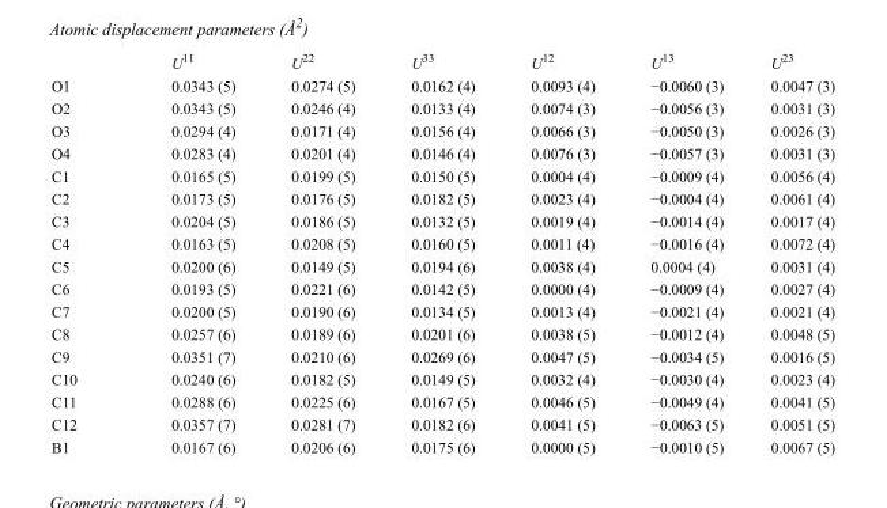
<table><thead><tr><td></td><td>U<sup>11</sup></td><td>U<sup>22</sup></td><td>U<sup>33</sup></td><td>U<sup>12</sup></td><td>U<sup>13</sup></td><td>U<sup>23</sup></td></tr></thead><tbody><tr><td>O1</td><td>0.0343 (5)</td><td>0.0274 (5)</td><td>0.0162 (4)</td><td>0.0093 (4)</td><td>−0.0060 (3)</td><td>0.0047 (3)</td></tr><tr><td>O2</td><td>0.0343 (5)</td><td>0.0246 (4)</td><td>0.0133 (4)</td><td>0.0074 (3)</td><td>−0.0056 (3)</td><td>0.0031 (3)</td></tr><tr><td>O3</td><td>0.0294 (4)</td><td>0.0171 (4)</td><td>0.0156 (4)</td><td>0.0066 (3)</td><td>−0.0050 (3)</td><td>0.0026 (3)</td></tr><tr><td>O4</td><td>0.0283 (4)</td><td>0.0201 (4)</td><td>0.0146 (4)</td><td>0.0076 (3)</td><td>−0.0057 (3)</td><td>0.0031 (3)</td></tr><tr><td>C1</td><td>0.0165 (5)</td><td>0.0199 (5)</td><td>0.0150 (5)</td><td>0.0004 (4)</td><td>−0.0009 (4)</td><td>0.0056 (4)</td></tr><tr><td>C2</td><td>0.0173 (5)</td><td>0.0176 (5)</td><td>0.0182 (5)</td><td>0.0023 (4)</td><td>−0.0004 (4)</td><td>0.0061 (4)</td></tr><tr><td>C3</td><td>0.0204 (5)</td><td>0.0186 (5)</td><td>0.0132 (5)</td><td>0.0019 (4)</td><td>−0.0014 (4)</td><td>0.0017 (4)</td></tr><tr><td>C4</td><td>0.0163 (5)</td><td>0.0208 (5)</td><td>0.0160 (5)</td><td>0.0011 (4)</td><td>−0.0016 (4)</td><td>0.0072 (4)</td></tr><tr><td>C5</td><td>0.0200 (6)</td><td>0.0149 (5)</td><td>0.0194 (6)</td><td>0.0038 (4)</td><td>0.0004 (4)</td><td>0.0031 (4)</td></tr><tr><td>C6</td><td>0.0193 (5)</td><td>0.0221 (6)</td><td>0.0142 (5)</td><td>0.0000 (4)</td><td>−0.0009 (4)</td><td>0.0027 (4)</td></tr><tr><td>C7</td><td>0.0200 (5)</td><td>0.0190 (6)</td><td>0.0134 (5)</td><td>0.0013 (4)</td><td>−0.0021 (4)</td><td>0.0021 (4)</td></tr><tr><td>C8</td><td>0.0257 (6)</td><td>0.0189 (6)</td><td>0.0201 (6)</td><td>0.0038 (5)</td><td>−0.0012 (4)</td><td>0.0048 (5)</td></tr><tr><td>C9</td><td>0.0351 (7)</td><td>0.0210 (6)</td><td>0.0269 (6)</td><td>0.0047 (5)</td><td>−0.0034 (5)</td><td>0.0016 (5)</td></tr><tr><td>C10</td><td>0.0240 (6)</td><td>0.0182 (5)</td><td>0.0149 (5)</td><td>0.0032 (4)</td><td>−0.0030 (4)</td><td>0.0023 (4)</td></tr><tr><td>C11</td><td>0.0288 (6)</td><td>0.0225 (6)</td><td>0.0167 (5)</td><td>0.0046 (5)</td><td>−0.0049 (4)</td><td>0.0041 (5)</td></tr><tr><td>C12</td><td>0.0357 (7)</td><td>0.0281 (7)</td><td>0.0182 (6)</td><td>0.0041 (5)</td><td>−0.0063 (5)</td><td>0.0051 (5)</td></tr><tr><td>B1</td><td>0.0167 (6)</td><td>0.0206 (6)</td><td>0.0175 (6)</td><td>0.0000 (5)</td><td>−0.0010 (5)</td><td>0.0067 (5)</td></tr></tbody></table>